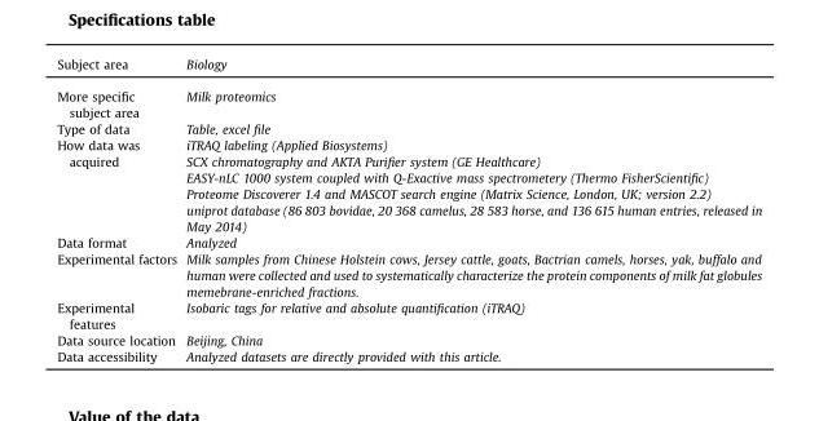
<table><tbody><tr><td>Subject area</td><td>Biology</td></tr><tr><td>More specific subject area</td><td>Milk proteomics</td></tr><tr><td>Type of data</td><td>Table, excel file</td></tr><tr><td rowspan="5">How data was acquired</td><td>iTRAQ labeling (Applied Biosystems)</td></tr><tr><td>SCX chromatography and AKTA Purifier system (GE Healthcare)</td></tr><tr><td>EASY-nLC 1000 system coupled with Q-Exactive mass spectrometery (Thermo FisherScientific)</td></tr><tr><td>Proteome Discoverer 1.4 and MASCOT search engine (Matrix Science, London, UK; version 2.2)</td></tr><tr><td>uniprot database (86 803 bovidae, 20 368 camelus, 28 583 horse, and 136 615 human entries, released in May 2014)</td></tr><tr><td>Data format</td><td>Analyzed</td></tr><tr><td>Experimental factors</td><td>Milk samples from Chinese Holstein cows, Jersey cattle, goats, Bactrian camels, horses, yak, buffalo and human were collected and used to systematically characterize the protein components of milk fat globules memebrane-enriched fractions.</td></tr><tr><td>Experimental features</td><td>Isobaric tags for relative and absolute quantification (iTRAQ)</td></tr><tr><td>Data source location</td><td>Beijing, China</td></tr><tr><td>Data accessibility</td><td>Analyzed datasets are directly provided with this article.</td></tr></tbody></table>